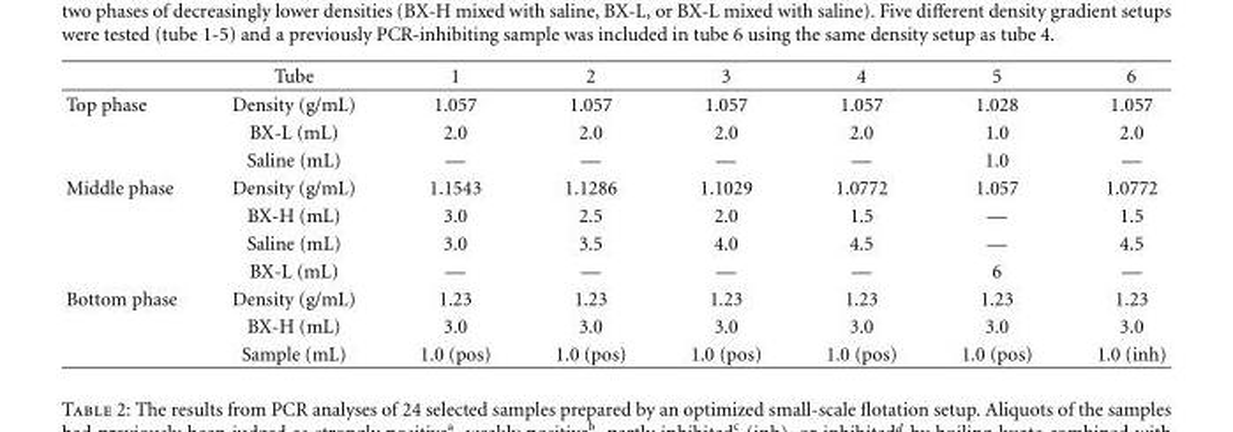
<table><thead><tr><td></td><td>Tube</td><td>1</td><td>2</td><td>3</td><td>4</td><td>5</td><td>6</td></tr></thead><tbody><tr><td rowspan="3">Top phase</td><td>Density (g/mL)</td><td>1.057</td><td>1.057</td><td>1.057</td><td>1.057</td><td>1.028</td><td>1.057</td></tr><tr><td>BX-L (mL)</td><td>2.0</td><td>2.0</td><td>2.0</td><td>2.0</td><td>1.0</td><td>2.0</td></tr><tr><td>Saline (mL)</td><td>—</td><td>—</td><td>—</td><td>—</td><td>1.0</td><td>—</td></tr><tr><td rowspan="4">Middle phase</td><td>Density (g/mL)</td><td>1.1543</td><td>1.1286</td><td>1.1029</td><td>1.0772</td><td>1.057</td><td>1.0772</td></tr><tr><td>BX-H (mL)</td><td>3.0</td><td>2.5</td><td>2.0</td><td>1.5</td><td>—</td><td>1.5</td></tr><tr><td>Saline (mL)</td><td>3.0</td><td>3.5</td><td>4.0</td><td>4.5</td><td>—</td><td>4.5</td></tr><tr><td>BX-L (mL)</td><td>—</td><td>—</td><td>—</td><td>—</td><td>6</td><td>—</td></tr><tr><td rowspan="3">Bottom phase</td><td>Density (g/mL)</td><td>1.23</td><td>1.23</td><td>1.23</td><td>1.23</td><td>1.23</td><td>1.23</td></tr><tr><td>BX-H (mL)</td><td>3.0</td><td>3.0</td><td>3.0</td><td>3.0</td><td>3.0</td><td>3.0</td></tr><tr><td>Sample (mL)</td><td>1.0 (pos)</td><td>1.0 (pos)</td><td>1.0 (pos)</td><td>1.0 (pos)</td><td>1.0 (pos)</td><td>1.0 (inh)</td></tr></tbody></table>